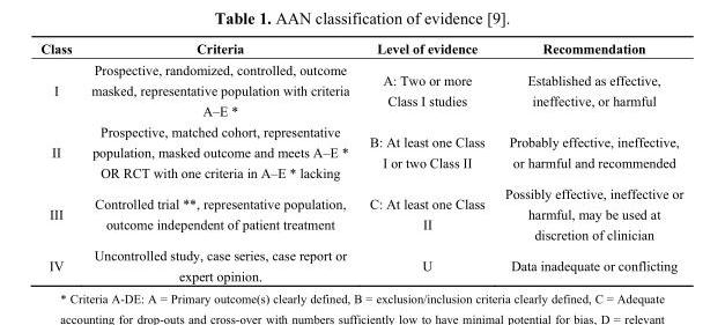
<table><thead><tr><td>Class</td><td>Criteria</td><td>Level of evidence</td><td>Recommendation</td></tr></thead><tbody><tr><td>I</td><td>Prospective, randomized, controlled, outcome masked, representative population with criteria A–E *</td><td>A: Two or more Class I studies</td><td>Established as effective, ineffective, or harmful</td></tr><tr><td>II</td><td>Prospective, matched cohort, representative population, masked outcome and meets A–E * OR RCT with one criteria in A–E * lacking</td><td>B: At least one Class I or two Class II</td><td>Probably effective, ineffective, or harmful and recommended</td></tr><tr><td>III</td><td>Controlled trial **, representative population, outcome independent of patient treatment</td><td>C: At least one Class II</td><td>Possibly effective, ineffective or harmful, may be used at discretion of clinician</td></tr><tr><td>IV</td><td>Uncontrolled study, case series, case report or expert opinion.</td><td>U</td><td>Data inadequate or conflicting</td></tr></tbody></table>